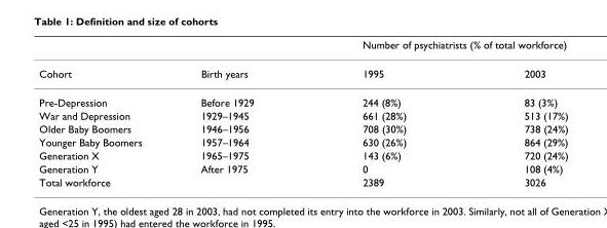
<table><thead><tr><td rowspan="2">Cohort</td><td rowspan="2">Birth years</td><td colspan="2">Number of psychiatrists (% of total workforce)</td></tr><tr><td>1995</td><td>2003</td></tr></thead><tbody><tr><td>Pre-Depression</td><td>Before 1929</td><td>244 (8%)</td><td>83 (3%)</td></tr><tr><td>War and Depression</td><td>1929–1945</td><td>661 (28%)</td><td>513 (17%)</td></tr><tr><td>Older Baby Boomers</td><td>1946–1956</td><td>708 (30%)</td><td>738 (24%)</td></tr><tr><td>Younger Baby Boomers</td><td>1957–1964</td><td>630 (26%)</td><td>864 (29%)</td></tr><tr><td>Generation X</td><td>1965–1975</td><td>143 (6%)</td><td>720 (24%)</td></tr><tr><td>Generation Y</td><td>After 1975</td><td>0</td><td>108 (4%)</td></tr><tr><td>Total workforce</td><td></td><td>2389</td><td>3026</td></tr></tbody></table>